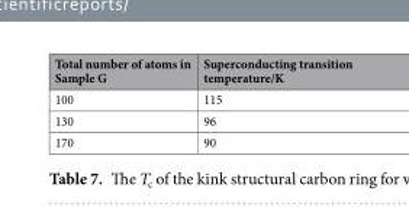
<table><thead><tr><td>Total number of atoms in Sample G</td><td>Superconducting transition temperature/K</td></tr></thead><tbody><tr><td>100</td><td>115</td></tr><tr><td>130</td><td>96</td></tr><tr><td>170</td><td>90</td></tr></tbody></table>